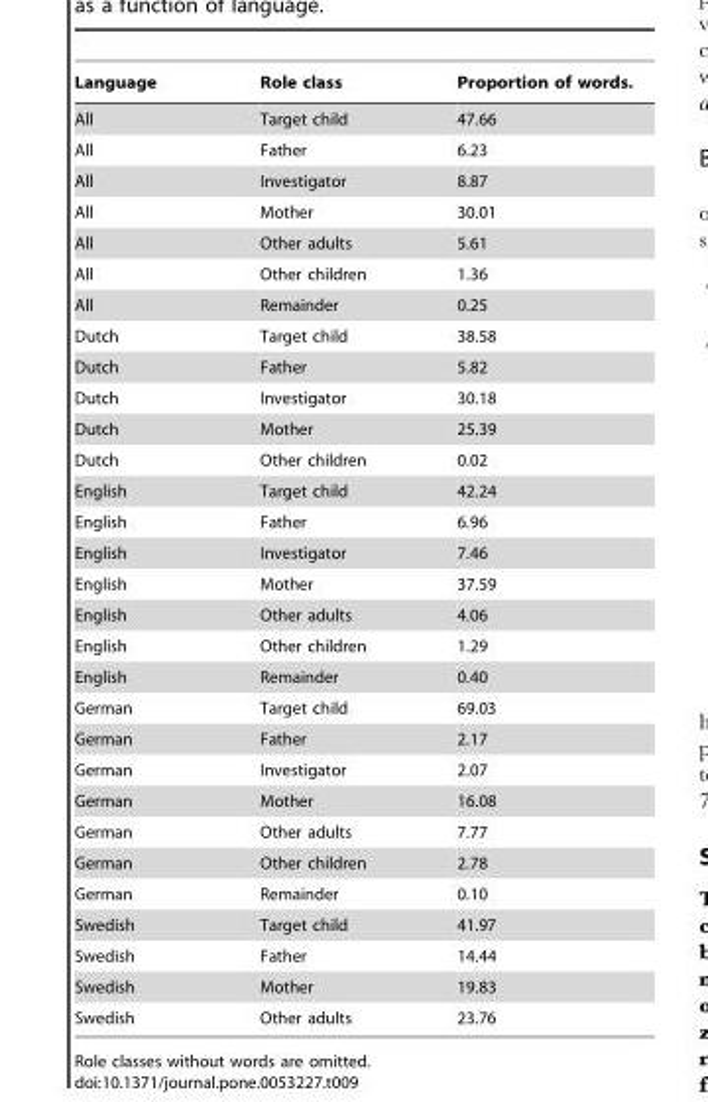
<table><thead><tr><td>Language</td><td>Role class</td><td>Proportion of words.</td></tr></thead><tbody><tr><td>All</td><td>Target child</td><td>47.66</td></tr><tr><td>All</td><td>Father</td><td>6.23</td></tr><tr><td>All</td><td>Investigator</td><td>8.87</td></tr><tr><td>All</td><td>Mother</td><td>30.01</td></tr><tr><td>All</td><td>Other adults</td><td>5.61</td></tr><tr><td>All</td><td>Other children</td><td>1.36</td></tr><tr><td>All</td><td>Remainder</td><td>0.25</td></tr><tr><td>Dutch</td><td>Target child</td><td>38.58</td></tr><tr><td>Dutch</td><td>Father</td><td>5.82</td></tr><tr><td>Dutch</td><td>Investigator</td><td>30.18</td></tr><tr><td>Dutch</td><td>Mother</td><td>25.39</td></tr><tr><td>Dutch</td><td>Other children</td><td>0.02</td></tr><tr><td>English</td><td>Target child</td><td>42.24</td></tr><tr><td>English</td><td>Father</td><td>6.96</td></tr><tr><td>English</td><td>Investigator</td><td>7.46</td></tr><tr><td>English</td><td>Mother</td><td>37.59</td></tr><tr><td>English</td><td>Other adults</td><td>4.06</td></tr><tr><td>English</td><td>Other children</td><td>1.29</td></tr><tr><td>English</td><td>Remainder</td><td>0.40</td></tr><tr><td>German</td><td>Target child</td><td>69.03</td></tr><tr><td>German</td><td>Father</td><td>2.17</td></tr><tr><td>German</td><td>Investigator</td><td>2.07</td></tr><tr><td>German</td><td>Mother</td><td>16.08</td></tr><tr><td>German</td><td>Other adults</td><td>7.77</td></tr><tr><td>German</td><td>Other children</td><td>2.78</td></tr><tr><td>German</td><td>Remainder</td><td>0.10</td></tr><tr><td>Swedish</td><td>Target child</td><td>41.97</td></tr><tr><td>Swedish</td><td>Father</td><td>14.44</td></tr><tr><td>Swedish</td><td>Mother</td><td>19.83</td></tr><tr><td>Swedish</td><td>Other adults</td><td>23.76</td></tr></tbody></table>